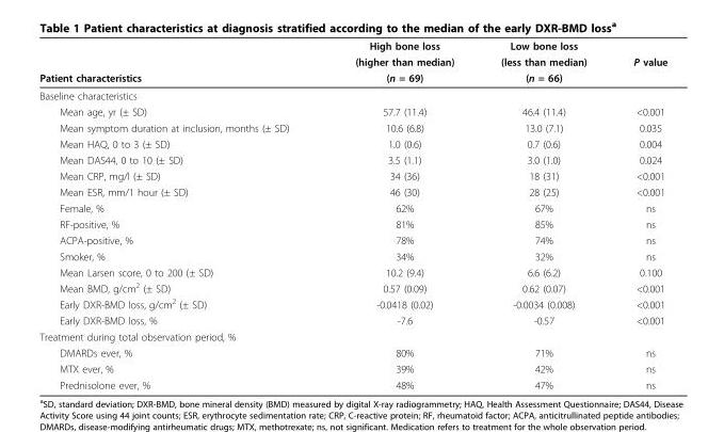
<table><thead><tr><td rowspan="3">Patient characteristics</td><td rowspan="3">High bone loss (higher than median) (n = 69)</td><td rowspan="3">Low bone loss (less than median) (n = 66)</td><td rowspan="3">P value</td></tr><tr></tr><tr></tr></thead><tbody><tr><td colspan="4">Baseline characteristics</td></tr><tr><td>Mean age, yr (± SD)</td><td>57.7 (11.4)</td><td>46.4 (11.4)</td><td>&lt;0.001</td></tr><tr><td>Mean symptom duration at inclusion, months (± SD)</td><td>10.6 (6.8)</td><td>13.0 (7.1)</td><td>0.035</td></tr><tr><td>Mean HAQ, 0 to 3 (± SD)</td><td>1.0 (0.6)</td><td>0.7 (0.6)</td><td>0.004</td></tr><tr><td>Mean DAS44, 0 to 10 (± SD)</td><td>3.5 (1.1)</td><td>3.0 (1.0)</td><td>0.024</td></tr><tr><td>Mean CRP, mg/l (± SD)</td><td>34 (36)</td><td>18 (31)</td><td>&lt;0.001</td></tr><tr><td>Mean ESR, mm/1 hour (± SD)</td><td>46 (30)</td><td>28 (25)</td><td>&lt;0.001</td></tr><tr><td>Female, %</td><td>62%</td><td>67%</td><td>ns</td></tr><tr><td>RF-positive, %</td><td>81%</td><td>85%</td><td>ns</td></tr><tr><td>ACPA-positive, %</td><td>78%</td><td>74%</td><td>ns</td></tr><tr><td>Smoker, %</td><td>34%</td><td>32%</td><td>ns</td></tr><tr><td>Mean Larsen score, 0 to 200 (± SD)</td><td>10.2 (9.4)</td><td>6.6 (6.2)</td><td>0.100</td></tr><tr><td>Mean BMD, g/cm<sup>2</sup> (± SD)</td><td>0.57 (0.09)</td><td>0.62 (0.07)</td><td>&lt;0.001</td></tr><tr><td>Early DXR-BMD loss, g/cm<sup>2</sup> (± SD)</td><td>-0.0418 (0.02)</td><td>-0.0034 (0.008)</td><td>&lt;0.001</td></tr><tr><td>Early DXR-BMD loss, %</td><td>-7.6</td><td>-0.57</td><td>&lt;0.001</td></tr><tr><td colspan="4">Treatment during total observation period, %</td></tr><tr><td>DMARDs ever, %</td><td>80%</td><td>71%</td><td>ns</td></tr><tr><td>MTX ever, %</td><td>39%</td><td>42%</td><td>ns</td></tr><tr><td>Prednisolone ever, %</td><td>48%</td><td>47%</td><td>ns</td></tr></tbody></table>